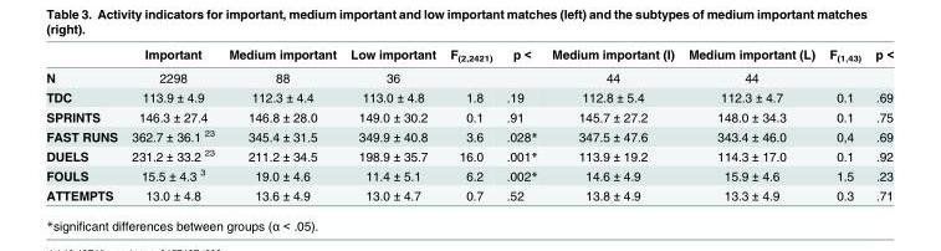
<table><thead><tr><td></td><td>Important</td><td>Medium important</td><td>Low important</td><td>F<sub>(2,2421)</sub></td><td>p &lt;</td><td>Medium important (I)</td><td>Medium important (L)</td><td>F<sub>(1,43)</sub></td><td>p &lt;</td></tr></thead><tbody><tr><td>N</td><td>2298</td><td>88</td><td>36</td><td></td><td></td><td>44</td><td>44</td><td></td><td></td></tr><tr><td>TDC</td><td>113.9 ± 4.9</td><td>112.3 ± 4.4</td><td>113.0 ± 4.8</td><td>1.8</td><td>.19</td><td>112.8 ± 5.4</td><td>112.3 ± 4.7</td><td>0.1</td><td>.69</td></tr><tr><td>SPRINTS</td><td>146.3 ± 27.4</td><td>146.8 ± 28.0</td><td>149.0 ± 30.2</td><td>0.1</td><td>.91</td><td>145.7 ± 27.2</td><td>148.0 ± 34.3</td><td>0.1</td><td>.75</td></tr><tr><td>FAST RUNS</td><td>362.7 ± 36.1 <sup>23</sup></td><td>345.4 ± 31.5</td><td>349.9 ± 40.8</td><td>3.6</td><td>.028*</td><td>347.5 ± 47.6</td><td>343.4 ± 46.0</td><td>0,4</td><td>.69</td></tr><tr><td>DUELS</td><td>231.2 ± 33.2 <sup>23</sup></td><td>211.2 ± 34.5</td><td>198.9 ± 35.7</td><td>16.0</td><td>.001*</td><td>113.9 ± 19.2</td><td>114.3 ± 17.0</td><td>0.1</td><td>.92</td></tr><tr><td>FOULS</td><td>15.5 ± 4.3 <sup>3</sup></td><td>19.0 ± 4.6</td><td>11.4 ± 5.1</td><td>6.2</td><td>.002*</td><td>14.6 ± 4.9</td><td>15.9 ± 4.6</td><td>1.5</td><td>.23</td></tr><tr><td>ATTEMPTS</td><td>13.0 ± 4.8</td><td>13.6 ± 4.9</td><td>13.0 ± 4.7</td><td>0.7</td><td>.52</td><td>13.8 ± 4.9</td><td>13.3 ± 4.9</td><td>0.3</td><td>.71</td></tr></tbody></table>